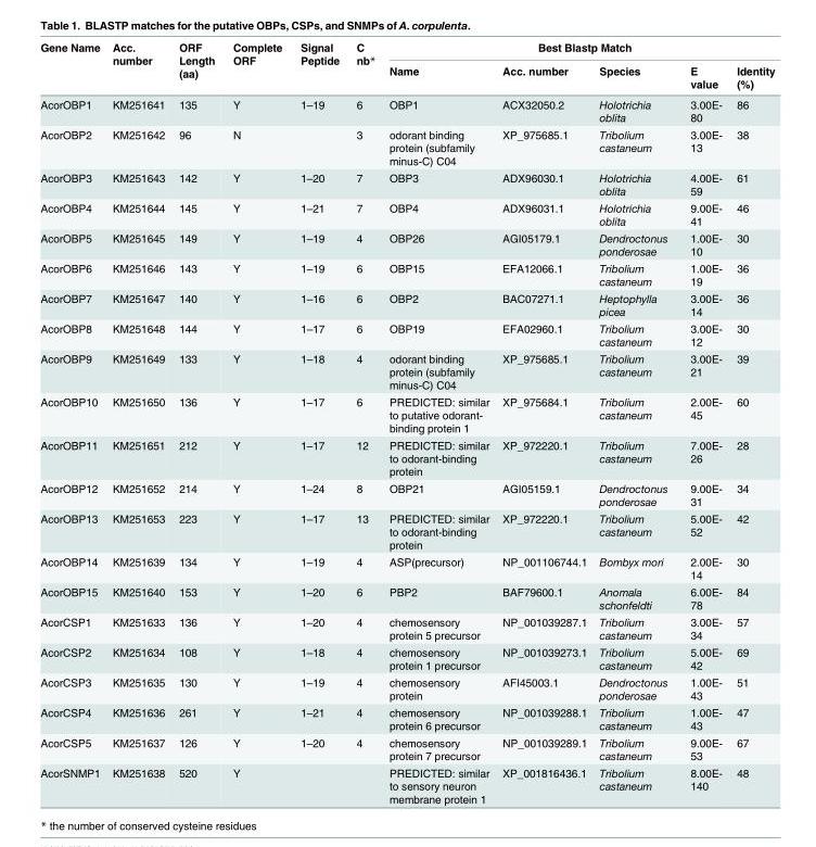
<table><thead><tr><td rowspan="2">Gene Name</td><td rowspan="2">Acc. number</td><td rowspan="2">ORF Length (aa)</td><td rowspan="2">Complete ORF</td><td rowspan="2">Signal Peptide</td><td rowspan="2">C nb*</td><td colspan="5">Best Blastp Match</td></tr><tr><td>Name</td><td>Acc. number</td><td>Species</td><td>E value</td><td>Identity (%)</td></tr></thead><tbody><tr><td>AcorOBP1</td><td>KM251641</td><td>135</td><td>Y</td><td>1–19</td><td>6</td><td>OBP1</td><td>ACX32050.2</td><td>Holotrichia oblita</td><td>3.00E- 80</td><td>86</td></tr><tr><td>AcorOBP2</td><td>KM251642</td><td>96</td><td>N</td><td></td><td>3</td><td>odorant binding protein (subfamily minus-C) C04</td><td>XP_975685.1</td><td>Tribolium castaneum</td><td>3.00E- 13</td><td>38</td></tr><tr><td>AcorOBP3</td><td>KM251643</td><td>142</td><td>Y</td><td>1–20</td><td>7</td><td>OBP3</td><td>ADX96030.1</td><td>Holotrichia oblita</td><td>4.00E- 59</td><td>61</td></tr><tr><td>AcorOBP4</td><td>KM251644</td><td>145</td><td>Y</td><td>1–21</td><td>7</td><td>OBP4</td><td>ADX96031.1</td><td>Holotrichia oblita</td><td>9.00E- 41</td><td>46</td></tr><tr><td>AcorOBP5</td><td>KM251645</td><td>149</td><td>Y</td><td>1–19</td><td>4</td><td>OBP26</td><td>AGI05179.1</td><td>Dendroctonus ponderosae</td><td>1.00E- 10</td><td>30</td></tr><tr><td>AcorOBP6</td><td>KM251646</td><td>143</td><td>Y</td><td>1–19</td><td>6</td><td>OBP15</td><td>EFA12066.1</td><td>Tribolium castaneum</td><td>1.00E- 19</td><td>36</td></tr><tr><td>AcorOBP7</td><td>KM251647</td><td>140</td><td>Y</td><td>1–16</td><td>6</td><td>OBP2</td><td>BAC07271.1</td><td>Heptophylla picea</td><td>3.00E- 14</td><td>36</td></tr><tr><td>AcorOBP8</td><td>KM251648</td><td>144</td><td>Y</td><td>1–17</td><td>6</td><td>OBP19</td><td>EFA02960.1</td><td>Tribolium castaneum</td><td>3.00E- 12</td><td>30</td></tr><tr><td>AcorOBP9</td><td>KM251649</td><td>133</td><td>Y</td><td>1–18</td><td>4</td><td>odorant binding protein (subfamily minus-C) C04</td><td>XP_975685.1</td><td>Tribolium castaneum</td><td>3.00E- 21</td><td>39</td></tr><tr><td>AcorOBP10</td><td>KM251650</td><td>136</td><td>Y</td><td>1–17</td><td>6</td><td>PREDICTED: similar to putative odorant- binding protein 1</td><td>XP_975684.1</td><td>Tribolium castaneum</td><td>2.00E- 45</td><td>60</td></tr><tr><td>AcorOBP11</td><td>KM251651</td><td>212</td><td>Y</td><td>1–17</td><td>12</td><td>PREDICTED: similar to odorant-binding protein</td><td>XP_972220.1</td><td>Tribolium castaneum</td><td>7.00E- 26</td><td>28</td></tr><tr><td>AcorOBP12</td><td>KM251652</td><td>214</td><td>Y</td><td>1–24</td><td>8</td><td>OBP21</td><td>AGI05159.1</td><td>Dendroctonus ponderosae</td><td>9.00E- 31</td><td>34</td></tr><tr><td>AcorOBP13</td><td>KM251653</td><td>223</td><td>Y</td><td>1–17</td><td>13</td><td>PREDICTED: similar to odorant-binding protein</td><td>XP_972220.1</td><td>Tribolium castaneum</td><td>5.00E- 52</td><td>42</td></tr><tr><td>AcorOBP14</td><td>KM251639</td><td>134</td><td>Y</td><td>1–19</td><td>4</td><td>ASP(precursor)</td><td>NP_001106744.1</td><td>Bombyx mori</td><td>2.00E- 14</td><td>30</td></tr><tr><td>AcorOBP15</td><td>KM251640</td><td>153</td><td>Y</td><td>1–20</td><td>6</td><td>PBP2</td><td>BAF79600.1</td><td>Anomala schonfeldti</td><td>6.00E- 78</td><td>84</td></tr><tr><td>AcorCSP1</td><td>KM251633</td><td>136</td><td>Y</td><td>1–20</td><td>4</td><td>chemosensory protein 5 precursor</td><td>NP_001039287.1</td><td>Tribolium castaneum</td><td>3.00E- 34</td><td>57</td></tr><tr><td>AcorCSP2</td><td>KM251634</td><td>108</td><td>Y</td><td>1–18</td><td>4</td><td>chemosensory protein 1 precursor</td><td>NP_001039273.1</td><td>Tribolium castaneum</td><td>5.00E- 42</td><td>69</td></tr><tr><td>AcorCSP3</td><td>KM251635</td><td>130</td><td>Y</td><td>1–19</td><td>4</td><td>chemosensory protein</td><td>AFI45003.1</td><td>Dendroctonus ponderosae</td><td>1.00E- 43</td><td>51</td></tr><tr><td>AcorCSP4</td><td>KM251636</td><td>261</td><td>Y</td><td>1–21</td><td>4</td><td>chemosensory protein 6 precursor</td><td>NP_001039288.1</td><td>Tribolium castaneum</td><td>1.00E- 43</td><td>47</td></tr><tr><td>AcorCSP5</td><td>KM251637</td><td>126</td><td>Y</td><td>1–20</td><td>4</td><td>chemosensory protein 7 precursor</td><td>NP_001039289.1</td><td>Tribolium castaneum</td><td>9.00E- 53</td><td>67</td></tr><tr><td>AcorSNMP1</td><td>KM251638</td><td>520</td><td>Y</td><td></td><td></td><td>PREDICTED: similar to sensory neuron membrane protein 1</td><td>XP_001816436.1</td><td>Tribolium castaneum</td><td>8.00E- 140</td><td>48</td></tr></tbody></table>